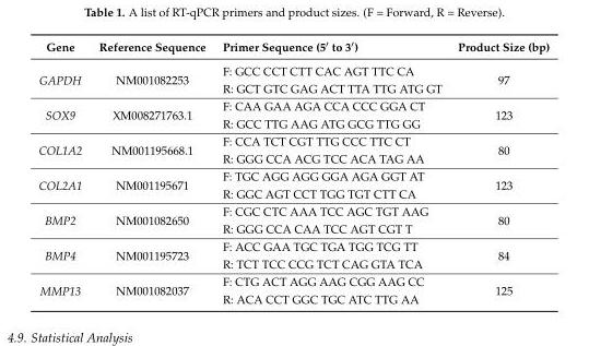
<table><thead><tr><td>Gene</td><td>Reference Sequence</td><td>Primer Sequence (5′ to 3′)</td><td>Product Size (bp)</td></tr></thead><tbody><tr><td rowspan="2">GAPDH</td><td rowspan="2">NM001082253</td><td>F: GCC CCT CTT CAC AGT TTC CA</td><td rowspan="2">97</td></tr><tr><td>R: GCT GTC GAG ACT TTA TTG ATG GT</td></tr><tr><td rowspan="2">SOX9</td><td rowspan="2">XM008271763.1</td><td>F: CAA GAA AGA CCA CCC GGA CT</td><td rowspan="2">123</td></tr><tr><td>R: GCC TTG AAG ATG GCG TTG GG</td></tr><tr><td rowspan="2">COL1A2</td><td rowspan="2">NM001195668.1</td><td>F: CCA TCT CGT TTG CCC TTC CT</td><td rowspan="2">80</td></tr><tr><td>R: GGG CCA ACG TCC ACA TAG AA</td></tr><tr><td rowspan="2">COL2A1</td><td rowspan="2">NM001195671</td><td>F: TGC AGG AGG GGA AGA GGT AT</td><td rowspan="2">123</td></tr><tr><td>R: GGC AGT CCT TGG TGT CTT CA</td></tr><tr><td rowspan="2">BMP2</td><td rowspan="2">NM001082650</td><td>F: CGC CTC AAA TCC AGC TGT AAG</td><td rowspan="2">80</td></tr><tr><td>R: GGG CCA CAA TCC AGT CGT T</td></tr><tr><td rowspan="2">BMP4</td><td rowspan="2">NM001195723</td><td>F: ACC GAA TGC TGA TGG TCG TT</td><td rowspan="2">84</td></tr><tr><td>R: TCT TCC CCG TCT CAG GTA TCA</td></tr><tr><td rowspan="2">MMP13</td><td rowspan="2">NM001082037</td><td>F: CTG ACT AGG AAG CGG AAG CC</td><td rowspan="2">125</td></tr><tr><td>R: ACA CCT GGC TGC ATC TTG AA</td></tr></tbody></table>